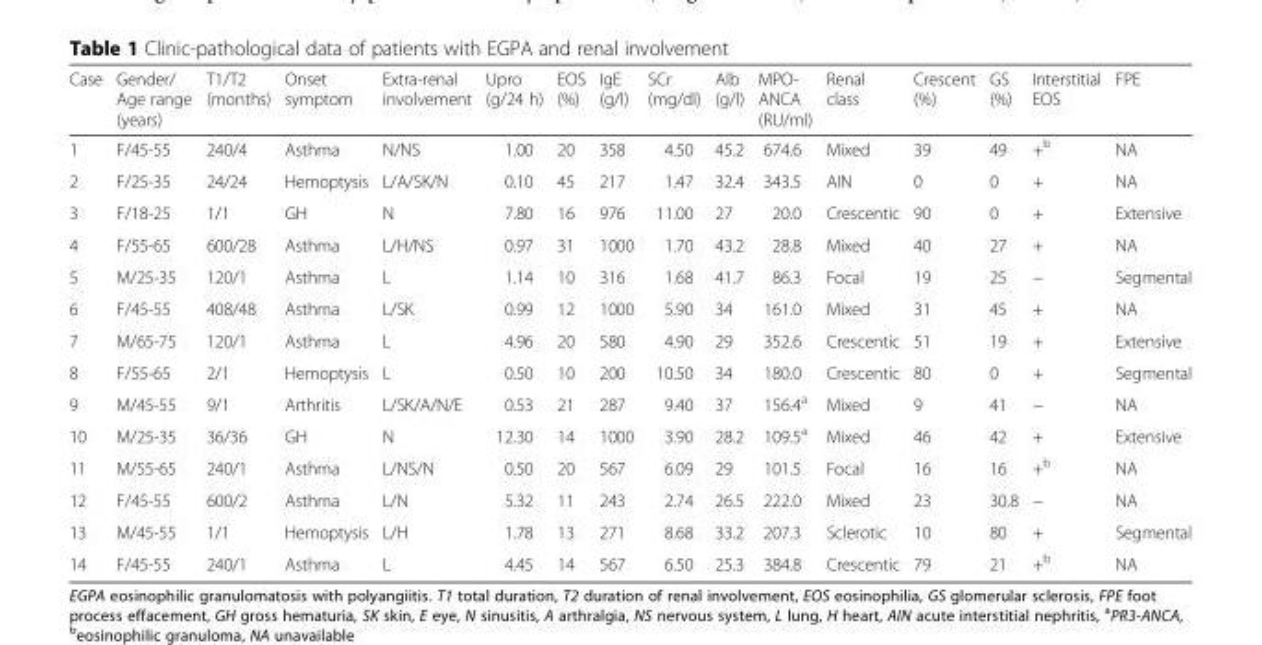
<table><thead><tr><td>Case</td><td>Gender/ Age range (years)</td><td>T1/T2 (months)</td><td>Onset symptom</td><td>Extra-renal involvement</td><td>Upro (g/24 h)</td><td>EOS (%)</td><td>IgE (g/l)</td><td>SCr (mg/dl)</td><td>Alb (g/l)</td><td>MPO- ANCA (RU/ml)</td><td>Renal class</td><td>Crescent (%)</td><td>GS (%)</td><td>Interstitial EOS</td><td>FPE</td></tr></thead><tbody><tr><td>1</td><td>F/45-55</td><td>240/4</td><td>Asthma</td><td>N/NS</td><td>1.00</td><td>20</td><td>358</td><td>4.50</td><td>45.2</td><td>674.6</td><td>Mixed</td><td>39</td><td>49</td><td>+<sup>b</sup></td><td>NA</td></tr><tr><td>2</td><td>F/25-35</td><td>24/24</td><td>Hemoptysis</td><td>L/A/SK/N</td><td>0.10</td><td>45</td><td>217</td><td>1.47</td><td>32.4</td><td>343.5</td><td>AIN</td><td>0</td><td>0</td><td>+</td><td>NA</td></tr><tr><td>3</td><td>F/18-25</td><td>1/1</td><td>GH</td><td>N</td><td>7.80</td><td>16</td><td>976</td><td>11.00</td><td>27</td><td>20.0</td><td>Crescentic</td><td>90</td><td>0</td><td>+</td><td>Extensive</td></tr><tr><td>4</td><td>F/55-65</td><td>600/28</td><td>Asthma</td><td>L/H/NS</td><td>0.97</td><td>31</td><td>1000</td><td>1.70</td><td>43.2</td><td>28.8</td><td>Mixed</td><td>40</td><td>27</td><td>+</td><td>NA</td></tr><tr><td>5</td><td>M/25-35</td><td>120/1</td><td>Asthma</td><td>L</td><td>1.14</td><td>10</td><td>316</td><td>1.68</td><td>41.7</td><td>86.3</td><td>Focal</td><td>19</td><td>25</td><td>−</td><td>Segmental</td></tr><tr><td>6</td><td>F/45-55</td><td>408/48</td><td>Asthma</td><td>L/SK</td><td>0.99</td><td>12</td><td>1000</td><td>5.90</td><td>34</td><td>161.0</td><td>Mixed</td><td>31</td><td>45</td><td>+</td><td>NA</td></tr><tr><td>7</td><td>M/65-75</td><td>120/1</td><td>Asthma</td><td>L</td><td>4.96</td><td>20</td><td>580</td><td>4.90</td><td>29</td><td>352.6</td><td>Crescentic</td><td>51</td><td>19</td><td>+</td><td>Extensive</td></tr><tr><td>8</td><td>F/55-65</td><td>2/1</td><td>Hemoptysis</td><td>L</td><td>0.50</td><td>10</td><td>200</td><td>10.50</td><td>34</td><td>180.0</td><td>Crescentic</td><td>80</td><td>0</td><td>+</td><td>Segmental</td></tr><tr><td>9</td><td>M/45-55</td><td>9/1</td><td>Arthritis</td><td>L/SK/A/N/E</td><td>0.53</td><td>21</td><td>287</td><td>9.40</td><td>37</td><td>156.4<sup>a</sup></td><td>Mixed</td><td>9</td><td>41</td><td>−</td><td>NA</td></tr><tr><td>10</td><td>M/25-35</td><td>36/36</td><td>GH</td><td>N</td><td>12.30</td><td>14</td><td>1000</td><td>3.90</td><td>28.2</td><td>109.5<sup>a</sup></td><td>Mixed</td><td>46</td><td>42</td><td>+</td><td>Extensive</td></tr><tr><td>11</td><td>M/55-65</td><td>240/1</td><td>Asthma</td><td>L/NS/N</td><td>0.50</td><td>20</td><td>567</td><td>6.09</td><td>29</td><td>101.5</td><td>Focal</td><td>16</td><td>16</td><td>+<sup>b</sup></td><td>NA</td></tr><tr><td>12</td><td>F/45-55</td><td>600/2</td><td>Asthma</td><td>L/N</td><td>5.32</td><td>11</td><td>243</td><td>2.74</td><td>26.5</td><td>222.0</td><td>Mixed</td><td>23</td><td>30.8</td><td>−</td><td>NA</td></tr><tr><td>13</td><td>M/45-55</td><td>1/1</td><td>Hemoptysis</td><td>L/H</td><td>1.78</td><td>13</td><td>271</td><td>8.68</td><td>33.2</td><td>207.3</td><td>Sclerotic</td><td>10</td><td>80</td><td>+</td><td>Segmental</td></tr><tr><td>14</td><td>F/45-55</td><td>240/1</td><td>Asthma</td><td>L</td><td>4.45</td><td>14</td><td>567</td><td>6.50</td><td>25.3</td><td>384.8</td><td>Crescentic</td><td>79</td><td>21</td><td>+<sup>b</sup></td><td>NA</td></tr></tbody></table>